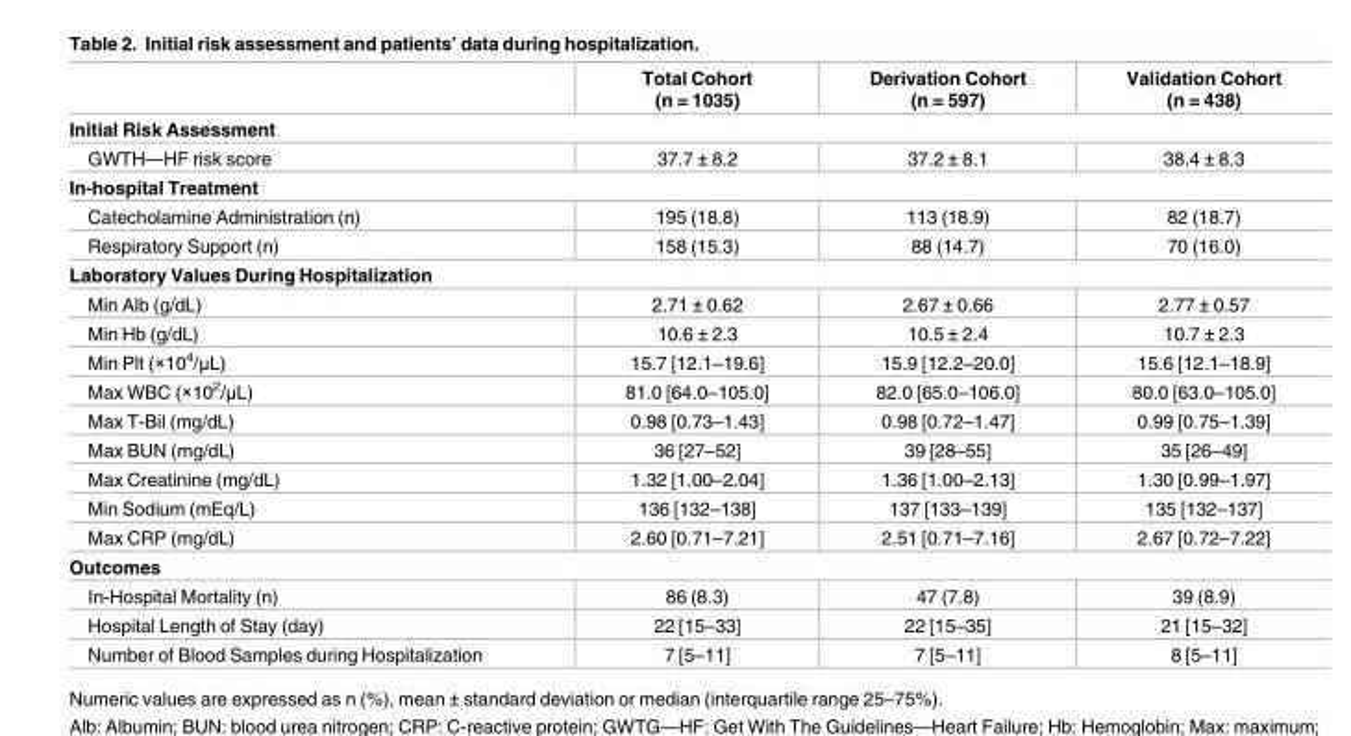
<table><thead><tr><td></td><td>Total Cohort (n = 1035)</td><td>Derivation Cohort (n = 597)</td><td>Validation Cohort (n = 438)</td></tr></thead><tbody><tr><td colspan="4">Initial Risk Assessment</td></tr><tr><td>GWTH—HF risk score</td><td>37.7 ± 8.2</td><td>37.2 ± 8.1</td><td>38.4 ± 8.3</td></tr><tr><td colspan="4">In-hospital Treatment</td></tr><tr><td>Catecholamine Administration (n)</td><td>195 (18.8)</td><td>113 (18.9)</td><td>82 (18.7)</td></tr><tr><td>Respiratory Support (n)</td><td>158 (15.3)</td><td>88 (14.7)</td><td>70 (16.0)</td></tr><tr><td colspan="4">Laboratory Values During Hospitalization</td></tr><tr><td>Min Alb (g/dL)</td><td>2.71 ± 0.62</td><td>2.67 ± 0.66</td><td>2.77 ± 0.57</td></tr><tr><td>Min Hb (g/dL)</td><td>10.6 ± 2.3</td><td>10.5 ± 2.4</td><td>10.7 ± 2.3</td></tr><tr><td>Min Plt (×10<sup>4</sup>/μL)</td><td>15.7 [12.1–19.6]</td><td>15.9 [12.2–20.0]</td><td>15.6 [12.1–18.9]</td></tr><tr><td>Max WBC (×10<sup>2</sup>/μL)</td><td>81.0 [64.0–105.0]</td><td>82.0 [65.0–106.0]</td><td>80.0 [63.0–105.0]</td></tr><tr><td>Max T-Bil (mg/dL)</td><td>0.98 [0.73–1.43]</td><td>0.98 [0.72–1.47]</td><td>0.99 [0.75–1.39]</td></tr><tr><td>Max BUN (mg/dL)</td><td>36 [27–52]</td><td>39 [28–55]</td><td>35 [26–49]</td></tr><tr><td>Max Creatinine (mg/dL)</td><td>1.32 [1.00–2.04]</td><td>1.36 [1.00–2.13]</td><td>1.30 [0.99–1.97]</td></tr><tr><td>Min Sodium (mEq/L)</td><td>136 [132–138]</td><td>137 [133–139]</td><td>135 [132–137]</td></tr><tr><td>Max CRP (mg/dL)</td><td>2.60 [0.71–7.21]</td><td>2.51 [0.71–7.16]</td><td>2.67 [0.72–7.22]</td></tr><tr><td colspan="4">Outcomes</td></tr><tr><td>In-Hospital Mortality (n)</td><td>86 (8.3)</td><td>47 (7.8)</td><td>39 (8.9)</td></tr><tr><td>Hospital Length of Stay (day)</td><td>22 [15–33]</td><td>22 [15–35]</td><td>21 [15–32]</td></tr><tr><td>Number of Blood Samples during Hospitalization</td><td>7 [5–11]</td><td>7 [5–11]</td><td>8 [5–11]</td></tr></tbody></table>